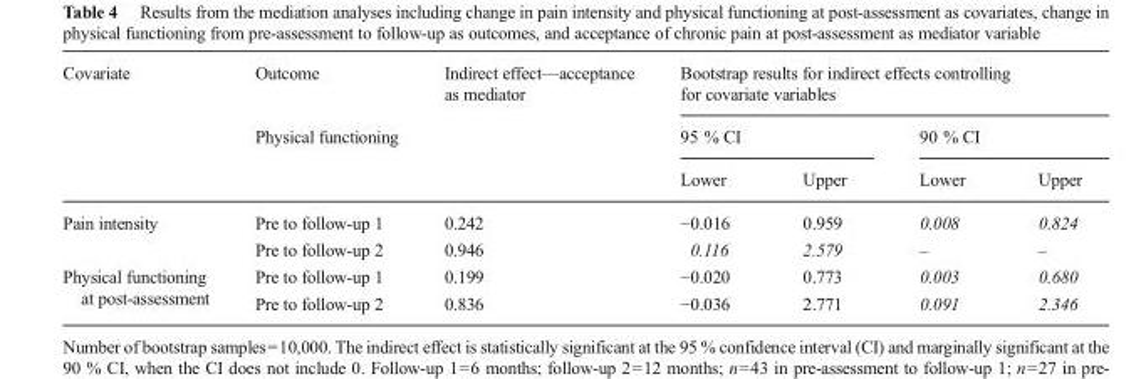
<table><thead><tr><td rowspan="3">Covariate</td><td rowspan="3">Outcome Physical functioning</td><td rowspan="3">Indirect effect—acceptance as mediator</td><td colspan="4">Bootstrap results for indirect effects controlling for covariate variables</td></tr><tr><td colspan="2">95 % CI</td><td colspan="2">90 % CI</td></tr><tr><td>Lower</td><td>Upper</td><td>Lower</td><td>Upper</td></tr></thead><tbody><tr><td rowspan="2">Pain intensity</td><td>Pre to follow-up 1</td><td>0.242</td><td>−0.016</td><td>0.959</td><td>0.008</td><td>0.824</td></tr><tr><td>Pre to follow-up 2</td><td>0.946</td><td>0.116</td><td>2.579</td><td>–</td><td>–</td></tr><tr><td rowspan="2">Physical functioning at post-assessment</td><td>Pre to follow-up 1</td><td>0.199</td><td>−0.020</td><td>0.773</td><td>0.003</td><td>0.680</td></tr><tr><td>Pre to follow-up 2</td><td>0.836</td><td>−0.036</td><td>2.771</td><td>0.091</td><td>2.346</td></tr></tbody></table>